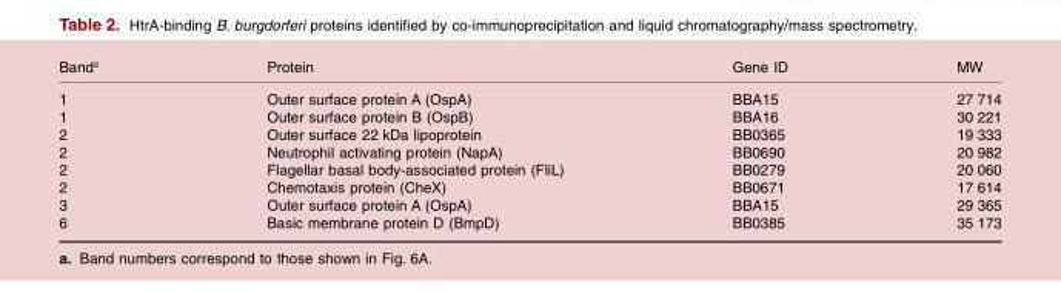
<table><thead><tr><td>Band<sup>a</sup></td><td>Protein</td><td>Gene ID</td><td>MW</td></tr></thead><tbody><tr><td>1</td><td>Outer surface protein A (OspA)</td><td>BBA15</td><td>27 714</td></tr><tr><td>1</td><td>Outer surface protein B (OspB)</td><td>BBA16</td><td>30 221</td></tr><tr><td>2</td><td>Outer surface 22 kDa lipoprotein</td><td>BB0365</td><td>19 333</td></tr><tr><td>2</td><td>Neutrophil activating protein (NapA)</td><td>BB0690</td><td>20 982</td></tr><tr><td>2</td><td>Flagellar basal body-associated protein (FliL)</td><td>BB0279</td><td>20 060</td></tr><tr><td>2</td><td>Chemotaxis protein (CheX)</td><td>BB0671</td><td>17 614</td></tr><tr><td>3</td><td>Outer surface protein A (OspA)</td><td>BBA15</td><td>29 365</td></tr><tr><td>6</td><td>Basic membrane protein D (BmpD)</td><td>BB0385</td><td>35 173</td></tr></tbody></table>